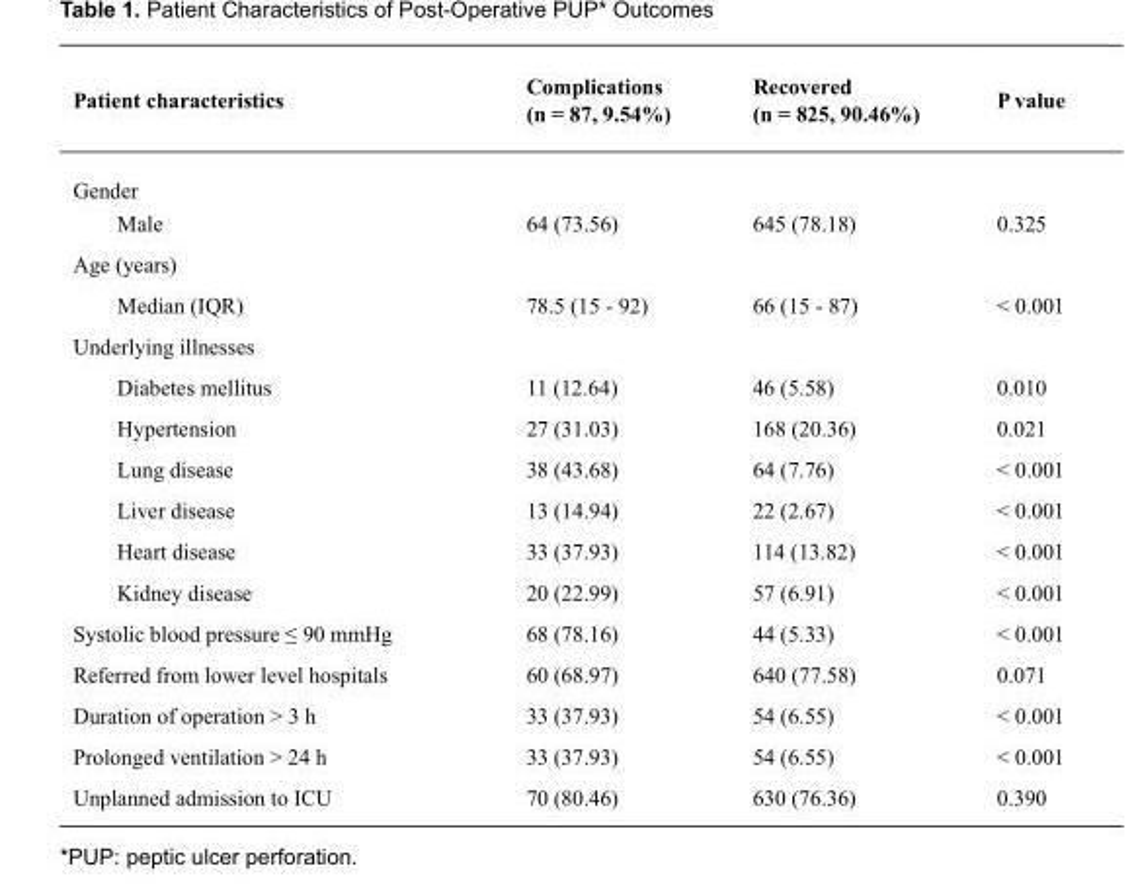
<table><thead><tr><td>Patient characteristics</td><td>Complications (n = 87, 9.54%)</td><td>Recovered (n = 825, 90.46%)</td><td>P value</td></tr></thead><tbody><tr><td colspan="4">Gender</td></tr><tr><td>Male</td><td>64 (73.56)</td><td>645 (78.18)</td><td>0.325</td></tr><tr><td colspan="4">Age (years)</td></tr><tr><td>Median (IQR)</td><td>78.5 (15 - 92)</td><td>66 (15 - 87)</td><td>&lt; 0.001</td></tr><tr><td colspan="4">Underlying illnesses</td></tr><tr><td>Diabetes mellitus</td><td>11 (12.64)</td><td>46 (5.58)</td><td>0.010</td></tr><tr><td>Hypertension</td><td>27 (31.03)</td><td>168 (20.36)</td><td>0.021</td></tr><tr><td>Lung disease</td><td>38 (43.68)</td><td>64 (7.76)</td><td>&lt; 0.001</td></tr><tr><td>Liver disease</td><td>13 (14.94)</td><td>22 (2.67)</td><td>&lt; 0.001</td></tr><tr><td>Heart disease</td><td>33 (37.93)</td><td>114 (13.82)</td><td>&lt; 0.001</td></tr><tr><td>Kidney disease</td><td>20 (22.99)</td><td>57 (6.91)</td><td>&lt; 0.001</td></tr><tr><td>Systolic blood pressure ≤ 90 mmHg</td><td>68 (78.16)</td><td>44 (5.33)</td><td>&lt; 0.001</td></tr><tr><td>Referred from lower level hospitals</td><td>60 (68.97)</td><td>640 (77.58)</td><td>0.071</td></tr><tr><td>Duration of operation &gt; 3 h</td><td>33 (37.93)</td><td>54 (6.55)</td><td>&lt; 0.001</td></tr><tr><td>Prolonged ventilation &gt; 24 h</td><td>33 (37.93)</td><td>54 (6.55)</td><td>&lt; 0.001</td></tr><tr><td>Unplanned admission to ICU</td><td>70 (80.46)</td><td>630 (76.36)</td><td>0.390</td></tr></tbody></table>